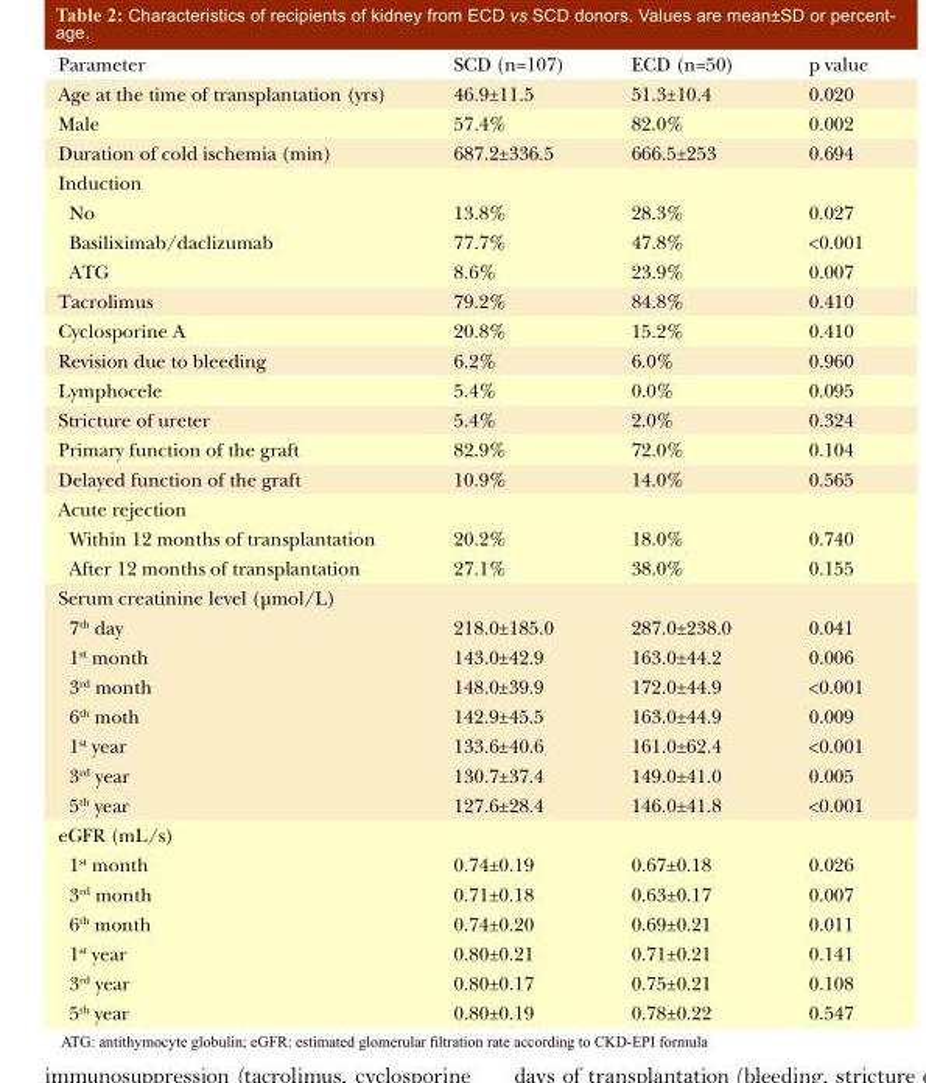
<table><thead><tr><td>Parameter</td><td>SCD (n=107)</td><td>ECD (n=50)</td><td>p value</td></tr></thead><tbody><tr><td>Age at the time of transplantation (yrs)</td><td>46.9±11.5</td><td>51.3±10.4</td><td>0.020</td></tr><tr><td>Male</td><td>57.4%</td><td>82.0%</td><td>0.002</td></tr><tr><td>Duration of cold ischemia (min)</td><td>687.2±336.5</td><td>666.5±253</td><td>0.694</td></tr><tr><td colspan="4">Induction</td></tr><tr><td>No</td><td>13.8%</td><td>28.3%</td><td>0.027</td></tr><tr><td>Basiliximab/daclizumab</td><td>77.7%</td><td>47.8%</td><td>&lt;0.001</td></tr><tr><td>ATG</td><td>8.6%</td><td>23.9%</td><td>0.007</td></tr><tr><td>Tacrolimus</td><td>79.2%</td><td>84.8%</td><td>0.410</td></tr><tr><td>Cyclosporine A</td><td>20.8%</td><td>15.2%</td><td>0.410</td></tr><tr><td>Revision due to bleeding</td><td>6.2%</td><td>6.0%</td><td>0.960</td></tr><tr><td>Lymphocele</td><td>5.4%</td><td>0.0%</td><td>0.095</td></tr><tr><td>Stricture of ureter</td><td>5.4%</td><td>2.0%</td><td>0.324</td></tr><tr><td>Primary function of the graft</td><td>82.9%</td><td>72.0%</td><td>0.104</td></tr><tr><td>Delayed function of the graft</td><td>10.9%</td><td>14.0%</td><td>0.565</td></tr><tr><td colspan="4">Acute rejection</td></tr><tr><td>Within 12 months of transplantation</td><td>20.2%</td><td>18.0%</td><td>0.740</td></tr><tr><td>After 12 months of transplantation</td><td>27.1%</td><td>38.0%</td><td>0.155</td></tr><tr><td colspan="4">Serum creatinine level (µmol/L)</td></tr><tr><td>7<sup>th</sup> day</td><td>218.0±185.0</td><td>287.0±238.0</td><td>0.041</td></tr><tr><td>1<sup>st</sup> month</td><td>143.0±42.9</td><td>163.0±44.2</td><td>0.006</td></tr><tr><td>3<sup>rd</sup> month</td><td>148.0±39.9</td><td>172.0±44.9</td><td>&lt;0.001</td></tr><tr><td>6<sup>th</sup> moth</td><td>142.9±45.5</td><td>163.0±44.9</td><td>0.009</td></tr><tr><td>1<sup>st</sup> year</td><td>133.6±40.6</td><td>161.0±62.4</td><td>&lt;0.001</td></tr><tr><td>3<sup>rd</sup> year</td><td>130.7±37.4</td><td>149.0±41.0</td><td>0.005</td></tr><tr><td>5<sup>th</sup> year</td><td>127.6±28.4</td><td>146.0±41.8</td><td>&lt;0.001</td></tr><tr><td colspan="4">eGFR (mL/s)</td></tr><tr><td>1<sup>st</sup> month</td><td>0.74±0.19</td><td>0.67±0.18</td><td>0.026</td></tr><tr><td>3<sup>rd</sup> month</td><td>0.71±0.18</td><td>0.63±0.17</td><td>0.007</td></tr><tr><td>6<sup>th</sup> month</td><td>0.74±0.20</td><td>0.69±0.21</td><td>0.011</td></tr><tr><td>1<sup>st</sup> year</td><td>0.80±0.21</td><td>0.71±0.21</td><td>0.141</td></tr><tr><td>3<sup>rd</sup> year</td><td>0.80±0.17</td><td>0.75±0.21</td><td>0.108</td></tr><tr><td>5<sup>th</sup> year</td><td>0.80±0.19</td><td>0.78±0.22</td><td>0.547</td></tr></tbody></table>